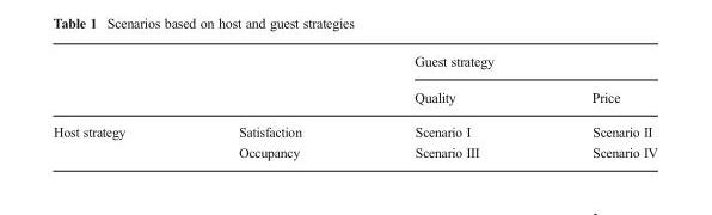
<table><thead><tr><td rowspan="2"></td><td rowspan="2"></td><td colspan="2">Guest strategy</td></tr><tr><td>Quality</td><td>Price</td></tr></thead><tbody><tr><td rowspan="2">Host strategy</td><td>Satisfaction</td><td>Scenario I</td><td>Scenario II</td></tr><tr><td>Occupancy</td><td>Scenario III</td><td>Scenario IV</td></tr></tbody></table>